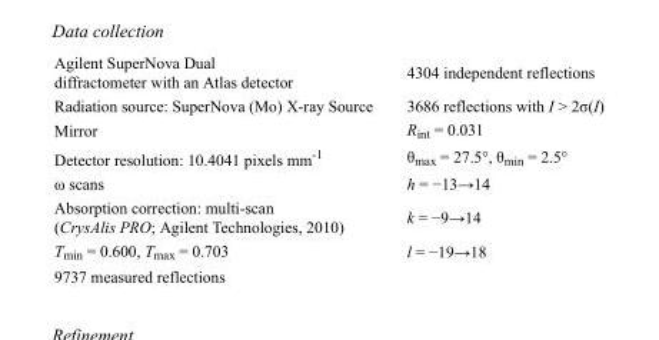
<table><tbody><tr><td>Agilent SuperNova Dual diffractometer with an Atlas detector</td><td>4304 independent reflections</td></tr><tr><td>Radiation source: SuperNova (Mo) X-ray Source</td><td>3686 reflections with I &gt; 2σ(I)</td></tr><tr><td>Mirror</td><td>R<sub>int</sub> = 0.031</td></tr><tr><td>Detector resolution: 10.4041 pixels mm<sup>-1</sup></td><td>θ<sub>max</sub> = 27.5°, θ<sub>min</sub> = 2.5°</td></tr><tr><td>ω scans</td><td>h = −13→14</td></tr><tr><td>Absorption correction: multi-scan (CrysAlis PRO; Agilent Technologies, 2010)</td><td>k = −9→14</td></tr><tr><td>T<sub>min</sub> = 0.600, T<sub>max</sub> = 0.703</td><td>l = −19→18</td></tr><tr><td>9737 measured reflections</td><td></td></tr></tbody></table>